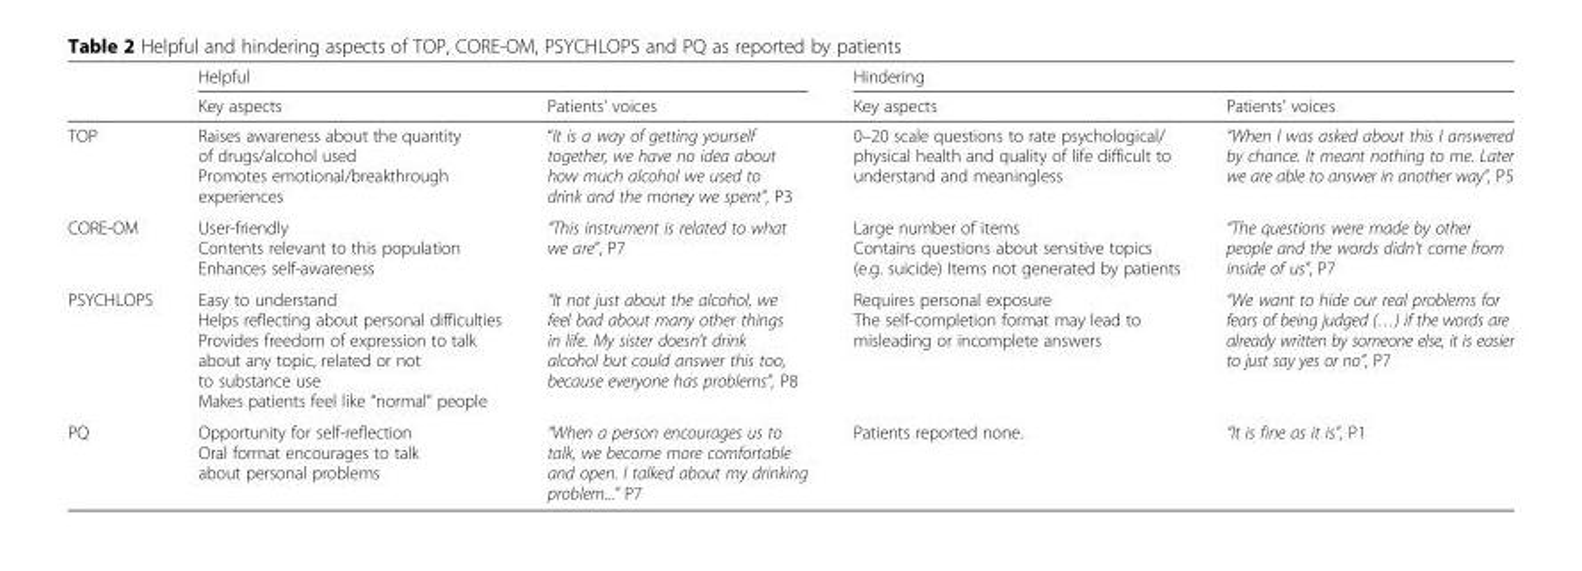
<table><thead><tr><td rowspan="2"></td><td colspan="2">Helpful</td><td colspan="2">Hindering</td></tr><tr><td>Key aspects</td><td>Patients’ voices</td><td>Key aspects</td><td>Patients’ voices</td></tr></thead><tbody><tr><td>TOP</td><td>Raises awareness about the quantity of drugs/alcohol used Promotes emotional/breakthrough experiences</td><td>“It is a way of getting yourself together, we have no idea about how much alcohol we used to drink and the money we spent”, P3</td><td>0–20 scale questions to rate psychological/ physical health and quality of life difficult to understand and meaningless</td><td>“When I was asked about this I answered by chance. It meant nothing to me. Later we are able to answer in another way”, P5</td></tr><tr><td>CORE-OM</td><td>User-friendly Contents relevant to this population Enhances self-awareness</td><td>“This instrument is related to what we are”, P7</td><td>Large number of items Contains questions about sensitive topics (e.g. suicide) Items not generated by patients</td><td>“The questions were made by other people and the words didn’t come from inside of us”, P7</td></tr><tr><td>PSYCHLOPS</td><td>Easy to understand Helps reflecting about personal difficulties Provides freedom of expression to talk about any topic, related or not to substance use Makes patients feel like “normal” people</td><td>“It not just about the alcohol, we feel bad about many other things in life. My sister doesn’t drink alcohol but could answer this too, because everyone has problems”, P8</td><td>Requires personal exposure The self-completion format may lead to misleading or incomplete answers</td><td>“We want to hide our real problems for fears of being judged (…) if the words are already written by someone else, it is easier to just say yes or no”, P7</td></tr><tr><td>PQ</td><td>Opportunity for self-reflection Oral format encourages to talk about personal problems</td><td>“When a person encourages us to talk, we become more comfortable and open. I talked about my drinking problem...” P7</td><td>Patients reported none.</td><td>“It is fine as it is”, P1</td></tr></tbody></table>